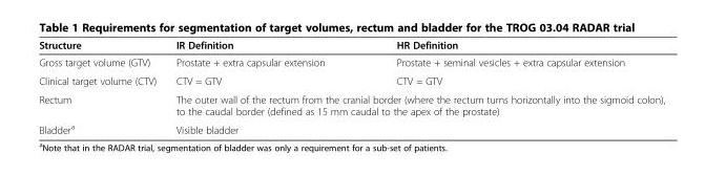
<table><thead><tr><td>Structure</td><td>IR Definition</td><td>HR Definition</td></tr></thead><tbody><tr><td>Gross target volume (GTV)</td><td>Prostate + extra capsular extension</td><td>Prostate + seminal vesicles + extra capsular extension</td></tr><tr><td>Clinical target volume (CTV)</td><td>CTV = GTV</td><td>CTV = GTV</td></tr><tr><td>Rectum</td><td colspan="2">The outer wall of the rectum from the cranial border (where the rectum turns horizontally into the sigmoid colon), to the caudal border (defined as 15 mm caudal to the apex of the prostate)</td></tr><tr><td>Bladder<sup>a</sup></td><td colspan="2">Visible bladder</td></tr></tbody></table>